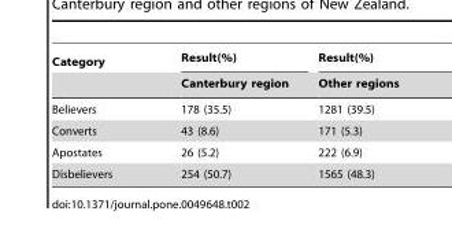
<table><thead><tr><td rowspan="2">Category</td><td rowspan="2">Result(%) Canterbury region</td><td rowspan="2">Result(%) Other regions</td></tr><tr></tr></thead><tbody><tr><td>Believers</td><td>178 (35.5)</td><td>1281 (39.5)</td></tr><tr><td>Converts</td><td>43 (8.6)</td><td>171 (5.3)</td></tr><tr><td>Apostates</td><td>26 (5.2)</td><td>222 (6.9)</td></tr><tr><td>Disbelievers</td><td>254 (50.7)</td><td>1565 (48.3)</td></tr></tbody></table>